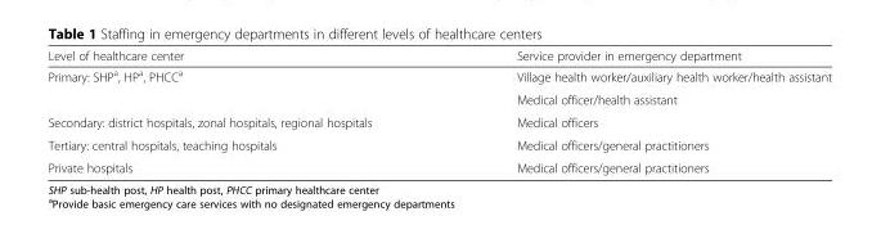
<table><thead><tr><td>Level of healthcare center</td><td>Service provider in emergency department</td></tr></thead><tbody><tr><td rowspan="2">Primary: SHP<sup>a</sup>, HP<sup>a</sup>, PHCC<sup>a</sup></td><td>Village health worker/auxiliary health worker/health assistant</td></tr><tr><td>Medical officer/health assistant</td></tr><tr><td>Secondary: district hospitals, zonal hospitals, regional hospitals</td><td>Medical officers</td></tr><tr><td>Tertiary: central hospitals, teaching hospitals</td><td>Medical officers/general practitioners</td></tr><tr><td>Private hospitals</td><td>Medical officers/general practitioners</td></tr></tbody></table>